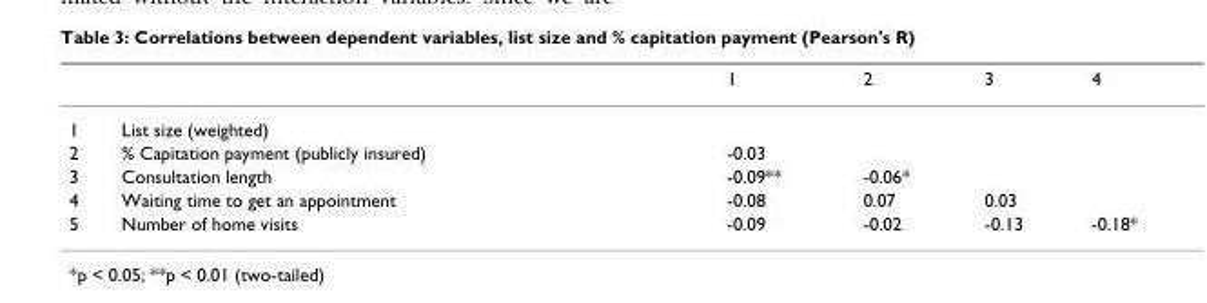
<table><thead><tr><td></td><td></td><td>1</td><td>2</td><td>3</td><td>4</td></tr></thead><tbody><tr><td>1</td><td>List size (weighted)</td><td></td><td></td><td></td><td></td></tr><tr><td>2</td><td>% Capitation payment (publicly insured)</td><td>-0.03</td><td></td><td></td><td></td></tr><tr><td>3</td><td>Consultation length</td><td>-0.09**</td><td>-0.06*</td><td></td><td></td></tr><tr><td>4</td><td>Waiting time to get an appointment</td><td>-0.08</td><td>0.07</td><td>0.03</td><td></td></tr><tr><td>5</td><td>Number of home visits</td><td>-0.09</td><td>-0.02</td><td>-0.13</td><td>-0.18*</td></tr></tbody></table>